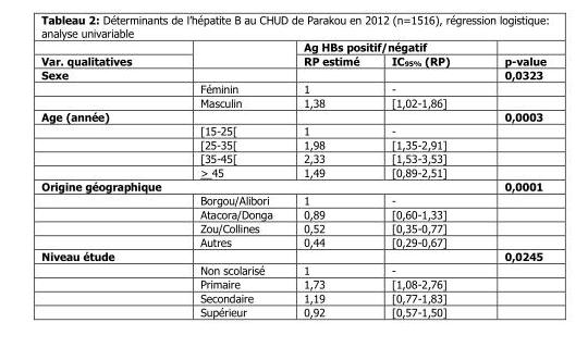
<table><thead><tr><td rowspan="2">Var. qualitatives</td><td rowspan="2"></td><td colspan="2">Ag HBs positif/négatif</td><td rowspan="2">p-value</td></tr><tr><td>RP estimé</td><td>IC<sub>95%</sub> (RP)</td></tr></thead><tbody><tr><td rowspan="3">Sexe</td><td></td><td></td><td></td><td>0,0323</td></tr><tr><td>Féminin</td><td>1</td><td>-</td><td></td></tr><tr><td>Masculin</td><td>1,38</td><td>[1,02-1,86]</td><td></td></tr><tr><td rowspan="5">Age (année)</td><td></td><td></td><td></td><td>0,0003</td></tr><tr><td>[15-25[</td><td>1</td><td>-</td><td></td></tr><tr><td>[25-35[</td><td>1,98</td><td>[1,35-2,91]</td><td></td></tr><tr><td>[35-45[</td><td>2,33</td><td>[1,53-3,53]</td><td></td></tr><tr><td>&gt; 45</td><td>1,49</td><td>[0,89-2,51]</td><td></td></tr><tr><td colspan="4">Origine géographique</td><td>0,0001</td></tr><tr><td></td><td>Borgou/Alibori</td><td>1</td><td>-</td><td></td></tr><tr><td></td><td>Atacora/Donga</td><td>0,89</td><td>[0,60-1,33]</td><td></td></tr><tr><td></td><td>Zou/Collines</td><td>0,52</td><td>[0,35-0,77]</td><td></td></tr><tr><td></td><td>Autres</td><td>0,44</td><td>[0,29-0,67]</td><td></td></tr><tr><td rowspan="5">Niveau étude</td><td></td><td></td><td></td><td>0,0245</td></tr><tr><td>Non scolarisé</td><td>1</td><td>-</td><td></td></tr><tr><td>Primaire</td><td>1,73</td><td>[1,08-2,76]</td><td></td></tr><tr><td>Secondaire</td><td>1,19</td><td>[0,77-1,83]</td><td></td></tr><tr><td>Supérieur</td><td>0,92</td><td>[0,57-1,50]</td><td></td></tr></tbody></table>